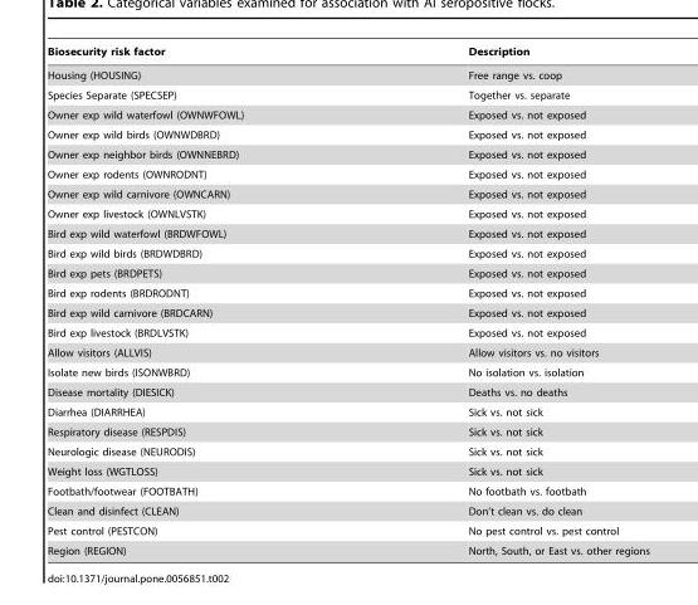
<table><thead><tr><td>Biosecurity risk factor</td><td>Description</td></tr></thead><tbody><tr><td>Housing (HOUSING)</td><td>Free range vs. coop</td></tr><tr><td>Species Separate (SPECSEP)</td><td>Together vs. separate</td></tr><tr><td>Owner exp wild waterfowl (OWNWFOWL)</td><td>Exposed vs. not exposed</td></tr><tr><td>Owner exp wild birds (OWNWDBRD)</td><td>Exposed vs. not exposed</td></tr><tr><td>Owner exp neighbor birds (OWNNEBRD)</td><td>Exposed vs. not exposed</td></tr><tr><td>Owner exp rodents (OWNRODNT)</td><td>Exposed vs. not exposed</td></tr><tr><td>Owner exp wild carnivore (OWNCARN)</td><td>Exposed vs. not exposed</td></tr><tr><td>Owner exp livestock (OWNLVSTK)</td><td>Exposed vs. not exposed</td></tr><tr><td>Bird exp wild waterfowl (BRDWFOWL)</td><td>Exposed vs. not exposed</td></tr><tr><td>Bird exp wild birds (BRDWDBRD)</td><td>Exposed vs. not exposed</td></tr><tr><td>Bird exp pets (BRDPETS)</td><td>Exposed vs. not exposed</td></tr><tr><td>Bird exp rodents (BRDRODNT)</td><td>Exposed vs. not exposed</td></tr><tr><td>Bird exp wild carnivore (BRDCARN)</td><td>Exposed vs. not exposed</td></tr><tr><td>Bird exp livestock (BRDLVSTK)</td><td>Exposed vs. not exposed</td></tr><tr><td>Allow visitors (ALLVIS)</td><td>Allow visitors vs. no visitors</td></tr><tr><td>Isolate new birds (ISONWBRD)</td><td>No isolation vs. isolation</td></tr><tr><td>Disease mortality (DIESICK)</td><td>Deaths vs. no deaths</td></tr><tr><td>Diarrhea (DIARRHEA)</td><td>Sick vs. not sick</td></tr><tr><td>Respiratory disease (RESPDIS)</td><td>Sick vs. not sick</td></tr><tr><td>Neurologic disease (NEURODIS)</td><td>Sick vs. not sick</td></tr><tr><td>Weight loss (WGTLOSS)</td><td>Sick vs. not sick</td></tr><tr><td>Footbath/footwear (FOOTBATH)</td><td>No footbath vs. footbath</td></tr><tr><td>Clean and disinfect (CLEAN)</td><td>Don’t clean vs. do clean</td></tr><tr><td>Pest control (PESTCON)</td><td>No pest control vs. pest control</td></tr><tr><td>Region (REGION)</td><td>North, South, or East vs. other regions</td></tr></tbody></table>